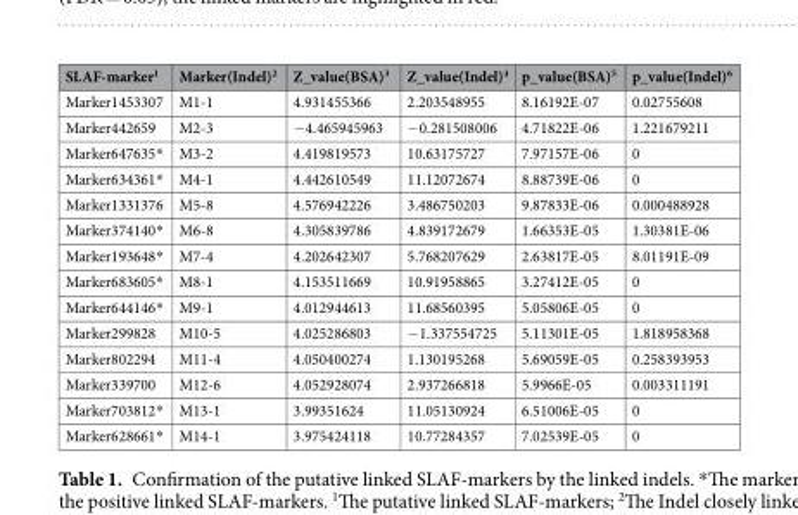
<table><thead><tr><td>SLAF-marker<sup>1</sup></td><td>Marker(Indel)<sup>2</sup></td><td>Z_value(BSA)<sup>3</sup></td><td>Z_value(Indel)<sup>4</sup></td><td>p_value(BSA)<sup>5</sup></td><td>p_value(Indel)<sup>6</sup></td></tr></thead><tbody><tr><td>Marker1453307</td><td>M1-1</td><td>4.931455366</td><td>2.203548955</td><td>8.16192E-07</td><td>0.02755608</td></tr><tr><td>Marker442659</td><td>M2-3</td><td>−4.465945963</td><td>−0.281508006</td><td>4.71822E-06</td><td>1.221679211</td></tr><tr><td>Marker647635*</td><td>M3-2</td><td>4.419819573</td><td>10.63175727</td><td>7.97157E-06</td><td>0</td></tr><tr><td>Marker634361*</td><td>M4-1</td><td>4.442610549</td><td>11.12072674</td><td>8.88739E-06</td><td>0</td></tr><tr><td>Marker1331376</td><td>M5-8</td><td>4.576942226</td><td>3.486750203</td><td>9.87833E-06</td><td>0.000488928</td></tr><tr><td>Marker374140*</td><td>M6-8</td><td>4.305839786</td><td>4.839172679</td><td>1.66353E-05</td><td>1.30381E-06</td></tr><tr><td>Marker193648*</td><td>M7-4</td><td>4.202642307</td><td>5.768207629</td><td>2.63817E-05</td><td>8.01191E-09</td></tr><tr><td>Marker683605*</td><td>M8-1</td><td>4.153511669</td><td>10.91958865</td><td>3.27412E-05</td><td>0</td></tr><tr><td>Marker644146*</td><td>M9-1</td><td>4.012944613</td><td>11.68560395</td><td>5.05806E-05</td><td>0</td></tr><tr><td>Marker299828</td><td>M10-5</td><td>4.025286803</td><td>−1.337554725</td><td>5.11301E-05</td><td>1.818958368</td></tr><tr><td>Marker802294</td><td>M11-4</td><td>4.050400274</td><td>1.130195268</td><td>5.69059E-05</td><td>0.258393953</td></tr><tr><td>Marker339700</td><td>M12-6</td><td>4.052928074</td><td>2.937266818</td><td>5.9966E-05</td><td>0.003311191</td></tr><tr><td>Marker703812*</td><td>M13-1</td><td>3.99351624</td><td>11.05130924</td><td>6.51006E-05</td><td>0</td></tr><tr><td>Marker628661*</td><td>M14-1</td><td>3.975424118</td><td>10.77284357</td><td>7.02539E-05</td><td>0</td></tr></tbody></table>